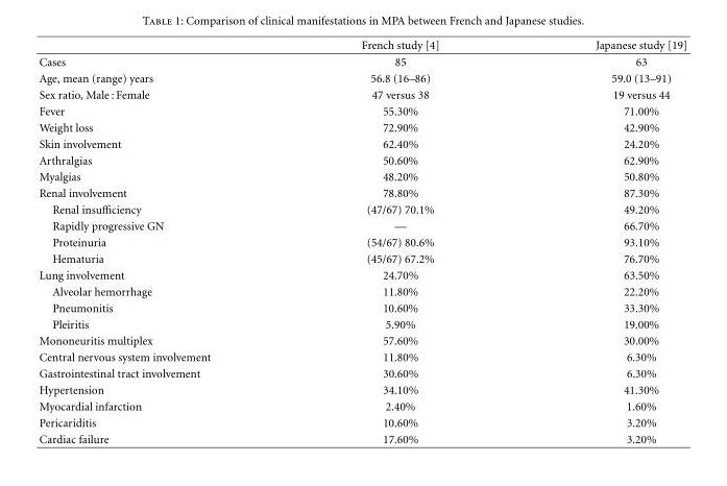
<table><thead><tr><td></td><td>French study [4]</td><td>Japanese study [19]</td></tr></thead><tbody><tr><td>Cases</td><td>85</td><td>63</td></tr><tr><td>Age, mean (range) years</td><td>56.8 (16–86)</td><td>59.0 (13–91)</td></tr><tr><td>Sex ratio, Male : Female</td><td>47 versus 38</td><td>19 versus 44</td></tr><tr><td>Fever</td><td>55.30%</td><td>71.00%</td></tr><tr><td>Weight loss</td><td>72.90%</td><td>42.90%</td></tr><tr><td>Skin involvement</td><td>62.40%</td><td>24.20%</td></tr><tr><td>Arthralgias</td><td>50.60%</td><td>62.90%</td></tr><tr><td>Myalgias</td><td>48.20%</td><td>50.80%</td></tr><tr><td>Renal involvement</td><td>78.80%</td><td>87.30%</td></tr><tr><td>Renal insufficiency</td><td>(47/67) 70.1%</td><td>49.20%</td></tr><tr><td>Rapidly progressive GN</td><td>—</td><td>66.70%</td></tr><tr><td>Proteinuria</td><td>(54/67) 80.6%</td><td>93.10%</td></tr><tr><td>Hematuria</td><td>(45/67) 67.2%</td><td>76.70%</td></tr><tr><td>Lung involvement</td><td>24.70%</td><td>63.50%</td></tr><tr><td>Alveolar hemorrhage</td><td>11.80%</td><td>22.20%</td></tr><tr><td>Pneumonitis</td><td>10.60%</td><td>33.30%</td></tr><tr><td>Pleiritis</td><td>5.90%</td><td>19.00%</td></tr><tr><td>Mononeuritis multiplex</td><td>57.60%</td><td>30.00%</td></tr><tr><td>Central nervous system involvement</td><td>11.80%</td><td>6.30%</td></tr><tr><td>Gastrointestinal tract involvement</td><td>30.60%</td><td>6.30%</td></tr><tr><td>Hypertension</td><td>34.10%</td><td>41.30%</td></tr><tr><td>Myocardial infarction</td><td>2.40%</td><td>1.60%</td></tr><tr><td>Pericariditis</td><td>10.60%</td><td>3.20%</td></tr><tr><td>Cardiac failure</td><td>17.60%</td><td>3.20%</td></tr></tbody></table>